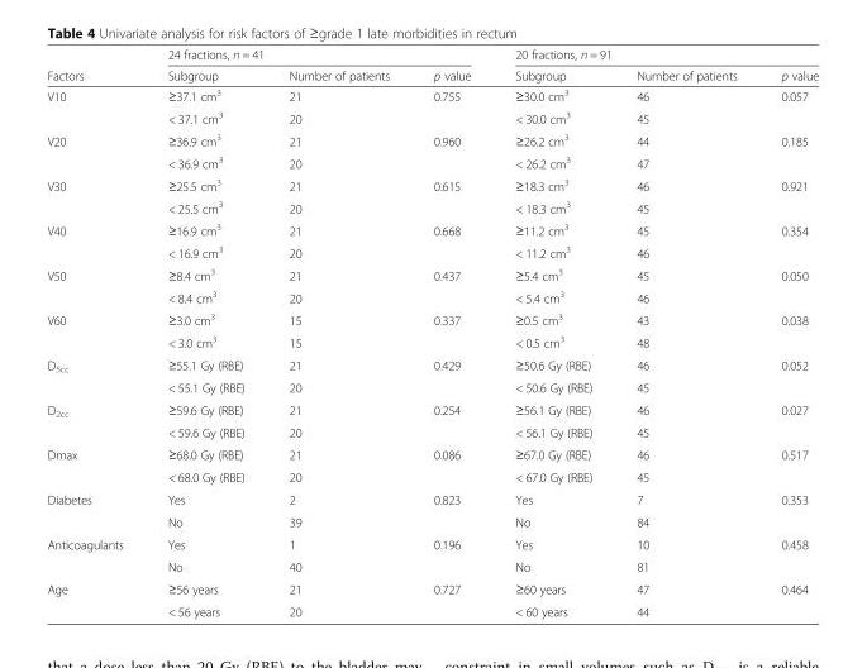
<table><thead><tr><td rowspan="2">Factors</td><td colspan="3">24 fractions, n = 41</td><td colspan="3">20 fractions, n = 91</td></tr><tr><td>Subgroup</td><td>Number of patients</td><td>p value</td><td>Subgroup</td><td>Number of patients</td><td>p value</td></tr></thead><tbody><tr><td rowspan="2">V10</td><td>≥37.1 cm<sup>3</sup></td><td>21</td><td rowspan="2">0.755</td><td>≥30.0 cm<sup>3</sup></td><td>46</td><td rowspan="2">0.057</td></tr><tr><td>&lt; 37.1 cm<sup>3</sup></td><td>20</td><td>&lt; 30.0 cm<sup>3</sup></td><td>45</td></tr><tr><td rowspan="2">V20</td><td>≥36.9 cm<sup>3</sup></td><td>21</td><td rowspan="2">0.960</td><td>≥26.2 cm<sup>3</sup></td><td>44</td><td rowspan="2">0.185</td></tr><tr><td>&lt; 36.9 cm<sup>3</sup></td><td>20</td><td>&lt; 26.2 cm<sup>3</sup></td><td>47</td></tr><tr><td rowspan="2">V30</td><td>≥25.5 cm<sup>3</sup></td><td>21</td><td rowspan="2">0.615</td><td>≥18.3 cm<sup>3</sup></td><td>46</td><td rowspan="2">0.921</td></tr><tr><td>&lt; 25.5 cm<sup>3</sup></td><td>20</td><td>&lt; 18.3 cm<sup>3</sup></td><td>45</td></tr><tr><td rowspan="2">V40</td><td>≥16.9 cm<sup>3</sup></td><td>21</td><td rowspan="2">0.668</td><td>≥11.2 cm<sup>3</sup></td><td>45</td><td rowspan="2">0.354</td></tr><tr><td>&lt; 16.9 cm<sup>3</sup></td><td>20</td><td>&lt; 11.2 cm<sup>3</sup></td><td>46</td></tr><tr><td rowspan="2">V50</td><td>≥8.4 cm<sup>3</sup></td><td>21</td><td rowspan="2">0.437</td><td>≥5.4 cm<sup>3</sup></td><td>45</td><td rowspan="2">0.050</td></tr><tr><td>&lt; 8.4 cm<sup>3</sup></td><td>20</td><td>&lt; 5.4 cm<sup>3</sup></td><td>46</td></tr><tr><td rowspan="2">V60</td><td>≥3.0 cm<sup>3</sup></td><td>15</td><td rowspan="2">0.337</td><td>≥0.5 cm<sup>3</sup></td><td>43</td><td rowspan="2">0.038</td></tr><tr><td>&lt; 3.0 cm<sup>3</sup></td><td>15</td><td>&lt; 0.5 cm<sup>3</sup></td><td>48</td></tr><tr><td rowspan="2">D<sub>5cc</sub></td><td>≥55.1 Gy (RBE)</td><td>21</td><td rowspan="2">0.429</td><td>≥50.6 Gy (RBE)</td><td>46</td><td rowspan="2">0.052</td></tr><tr><td>&lt; 55.1 Gy (RBE)</td><td>20</td><td>&lt; 50.6 Gy (RBE)</td><td>45</td></tr><tr><td rowspan="2">D<sub>2cc</sub></td><td>≥59.6 Gy (RBE)</td><td>21</td><td rowspan="2">0.254</td><td>≥56.1 Gy (RBE)</td><td>46</td><td rowspan="2">0.027</td></tr><tr><td>&lt; 59.6 Gy (RBE)</td><td>20</td><td>&lt; 56.1 Gy (RBE)</td><td>45</td></tr><tr><td rowspan="2">Dmax</td><td>≥68.0 Gy (RBE)</td><td>21</td><td rowspan="2">0.086</td><td>≥67.0 Gy (RBE)</td><td>46</td><td rowspan="2">0.517</td></tr><tr><td>&lt; 68.0 Gy (RBE)</td><td>20</td><td>&lt; 67.0 Gy (RBE)</td><td>45</td></tr><tr><td rowspan="2">Diabetes</td><td>Yes</td><td>2</td><td rowspan="2">0.823</td><td>Yes</td><td>7</td><td rowspan="2">0.353</td></tr><tr><td>No</td><td>39</td><td>No</td><td>84</td></tr><tr><td rowspan="2">Anticoagulants</td><td>Yes</td><td>1</td><td rowspan="2">0.196</td><td>Yes</td><td>10</td><td rowspan="2">0.458</td></tr><tr><td>No</td><td>40</td><td>No</td><td>81</td></tr><tr><td rowspan="2">Age</td><td>≥56 years</td><td>21</td><td rowspan="2">0.727</td><td>≥60 years</td><td>47</td><td rowspan="2">0.464</td></tr><tr><td>&lt; 56 years</td><td>20</td><td>&lt; 60 years</td><td>44</td></tr></tbody></table>